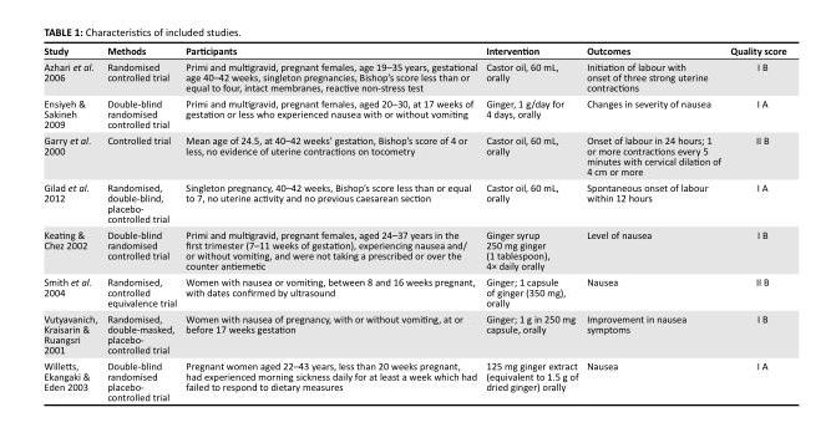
<table><thead><tr><td>Study</td><td>Methods</td><td>Participants</td><td>Intervention</td><td>Outcomes</td><td>Quality score</td></tr></thead><tbody><tr><td>Azhari et al. 2006</td><td>Randomised controlled trial</td><td>Primi and multigravid, pregnant females, age 19–35 years, gestational age 40–42 weeks, singleton pregnancies, Bishop’s score less than or equal to four, intact membranes, reactive non-stress test</td><td>Castor oil, 60 mL, orally</td><td>Initiation of labour with onset of three strong uterine contractions</td><td>I B</td></tr><tr><td>Ensiyeh &amp; Sakineh 2009</td><td>Double-blind randomised controlled trial</td><td>Primi and multigravid, pregnant females, aged 20–30, at 17 weeks of gestation or less who experienced nausea with or without vomiting</td><td>Ginger, 1 g/day for 4 days, orally</td><td>Changes in severity of nausea</td><td>I A</td></tr><tr><td>Garry et al. 2000</td><td>Controlled trial</td><td>Mean age of 24.5, at 40–42 weeks’ gestation, Bishop’s score of 4 or less, no evidence of uterine contractions on tocometry</td><td>Castor oil, 60 mL, orally</td><td>Onset of labour in 24 hours; 1 or more contractions every 5 minutes with cervical dilation of 4 cm or more</td><td>II B</td></tr><tr><td>Gilad et al. 2012</td><td>Randomised, double-blind, placebo- controlled trial</td><td>Singleton pregnancy, 40–42 weeks, Bishop’s score less than or equal to 7, no uterine activity and no previous caesarean section</td><td>Castor oil, 60 mL, orally</td><td>Spontaneous onset of labour within 12 hours</td><td>I A</td></tr><tr><td>Keating &amp; Chez 2002</td><td>Double-blind randomised controlled trial</td><td>Primi and multigravid, pregnant females, aged 24–37 years in the first trimester (7–11 weeks of gestation), experiencing nausea and/ or without vomiting, and were not taking a prescribed or over the counter antiemetic</td><td>Ginger syrup 250 mg ginger (1 tablespoon), 4× daily orally</td><td>Level of nausea</td><td>I B</td></tr><tr><td>Smith et al. 2004</td><td>Randomised, controlled equivalence trial</td><td>Women with nausea or vomiting, between 8 and 16 weeks pregnant, with dates confirmed by ultrasound</td><td>Ginger; 1 capsule of ginger (350 mg), orally</td><td>Nausea</td><td>II B</td></tr><tr><td>Vutyavanich, Kraisarin &amp; Ruangsri 2001</td><td>Randomised, double-masked, placebo- controlled trial</td><td>Women with nausea of pregnancy, with or without vomiting, at or before 17 weeks gestation</td><td>Ginger; 1 g in 250 mg capsule, orally</td><td>Improvement in nausea symptoms</td><td>I B</td></tr><tr><td>Willetts, Ekangaki &amp; Eden 2003</td><td>Double-blind randomised placebo- controlled trial</td><td>Pregnant women aged 22–43 years, less than 20 weeks pregnant, had experienced morning sickness daily for at least a week which had failed to respond to dietary measures</td><td>125 mg ginger extract (equivalent to 1.5 g of dried ginger) orally</td><td>Nausea</td><td>I A</td></tr></tbody></table>